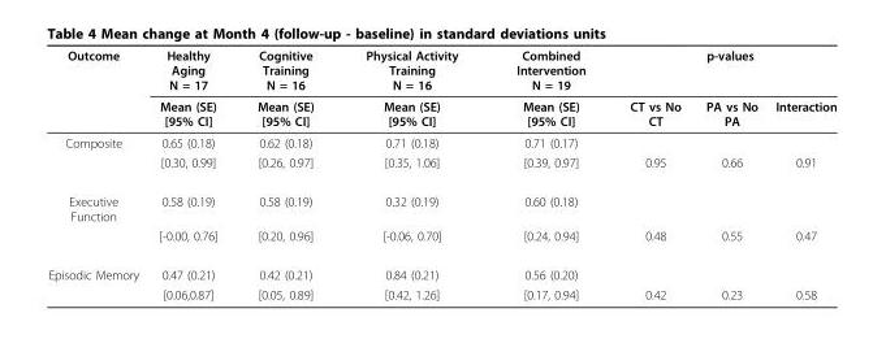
<table><thead><tr><td rowspan="2">Outcome</td><td rowspan="2">Healthy Aging N = 17 Mean (SE) [95% CI]</td><td rowspan="2">Cognitive Training N = 16 Mean (SE) [95% CI]</td><td rowspan="2">Physical Activity Training N = 16 Mean (SE) [95% CI]</td><td rowspan="2">Combined Intervention N = 19 Mean (SE) [95% CI]</td><td colspan="3">p-values</td></tr><tr><td>CT vs No CT</td><td>PA vs No PA</td><td>Interaction</td></tr></thead><tbody><tr><td rowspan="2">Composite</td><td>0.65 (0.18)</td><td>0.62 (0.18)</td><td>0.71 (0.18)</td><td>0.71 (0.17)</td><td></td><td></td><td></td></tr><tr><td>[0.30, 0.99]</td><td>[0.26, 0.97]</td><td>[0.35, 1.06]</td><td>[0.39, 0.97]</td><td>0.95</td><td>0.66</td><td>0.91</td></tr><tr><td rowspan="2">Executive Function</td><td>0.58 (0.19)</td><td>0.58 (0.19)</td><td>0.32 (0.19)</td><td>0.60 (0.18)</td><td></td><td></td><td></td></tr><tr><td>[-0.00, 0.76]</td><td>[0.20, 0.96]</td><td>[-0.06, 0.70]</td><td>[0.24, 0.94]</td><td>0.48</td><td>0.55</td><td>0.47</td></tr><tr><td rowspan="2">Episodic Memory</td><td>0.47 (0.21)</td><td>0.42 (0.21)</td><td>0.84 (0.21)</td><td>0.56 (0.20)</td><td></td><td></td><td></td></tr><tr><td>[0.06,0.87]</td><td>[0.05, 0.89]</td><td>[0.42, 1.26]</td><td>[0.17, 0.94]</td><td>0.42</td><td>0.23</td><td>0.58</td></tr></tbody></table>